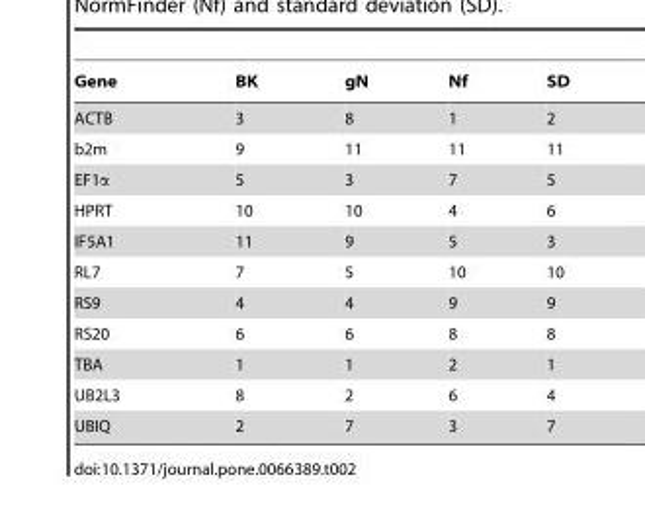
<table><thead><tr><td>Gene</td><td>BK</td><td>gN</td><td>Nf</td><td>SD</td></tr></thead><tbody><tr><td>ACTB</td><td>3</td><td>8</td><td>1</td><td>2</td></tr><tr><td>b2m</td><td>9</td><td>11</td><td>11</td><td>11</td></tr><tr><td>EF1α</td><td>5</td><td>3</td><td>7</td><td>5</td></tr><tr><td>HPRT</td><td>10</td><td>10</td><td>4</td><td>6</td></tr><tr><td>IF5A1</td><td>11</td><td>9</td><td>5</td><td>3</td></tr><tr><td>RL7</td><td>7</td><td>5</td><td>10</td><td>10</td></tr><tr><td>RS9</td><td>4</td><td>4</td><td>9</td><td>9</td></tr><tr><td>RS20</td><td>6</td><td>6</td><td>8</td><td>8</td></tr><tr><td>TBA</td><td>1</td><td>1</td><td>2</td><td>1</td></tr><tr><td>UB2L3</td><td>8</td><td>2</td><td>6</td><td>4</td></tr><tr><td>UBIQ</td><td>2</td><td>7</td><td>3</td><td>7</td></tr></tbody></table>